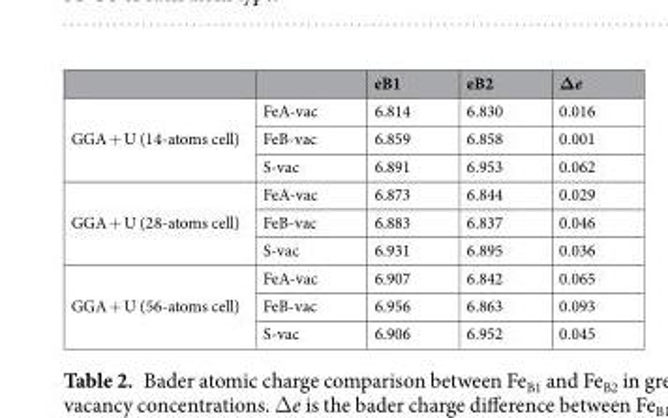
<table><thead><tr><td></td><td></td><td>eB1</td><td>eB2</td><td>Δe</td></tr></thead><tbody><tr><td rowspan="3">GGA + U (14-atoms cell)</td><td>FeA-vac</td><td>6.814</td><td>6.830</td><td>0.016</td></tr><tr><td>FeB-vac</td><td>6.859</td><td>6.858</td><td>0.001</td></tr><tr><td>S-vac</td><td>6.891</td><td>6.953</td><td>0.062</td></tr><tr><td rowspan="3">GGA + U (28-atoms cell)</td><td>FeA-vac</td><td>6.873</td><td>6.844</td><td>0.029</td></tr><tr><td>FeB-vac</td><td>6.883</td><td>6.837</td><td>0.046</td></tr><tr><td>S-vac</td><td>6.931</td><td>6.895</td><td>0.036</td></tr><tr><td rowspan="3">GGA + U (56-atoms cell)</td><td>FeA-vac</td><td>6.907</td><td>6.842</td><td>0.065</td></tr><tr><td>FeB-vac</td><td>6.956</td><td>6.863</td><td>0.093</td></tr><tr><td>S-vac</td><td>6.906</td><td>6.952</td><td>0.045</td></tr></tbody></table>